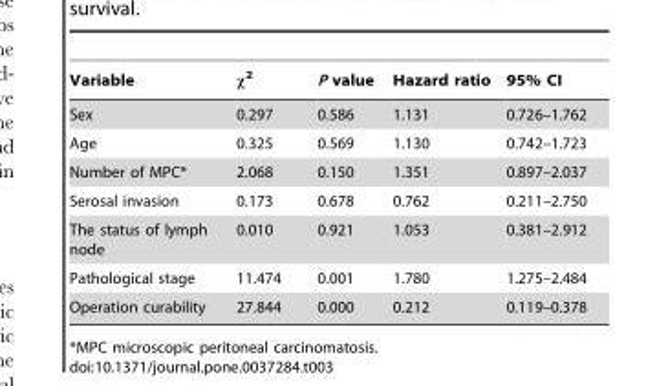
<table><thead><tr><td>Variable</td><td>χ<sup>2</sup></td><td>P value</td><td>Hazard ratio</td><td>95% CI</td></tr></thead><tbody><tr><td>Sex</td><td>0.297</td><td>0.586</td><td>1.131</td><td>0.726–1.762</td></tr><tr><td>Age</td><td>0.325</td><td>0.569</td><td>1.130</td><td>0.742–1.723</td></tr><tr><td>Number of MPC*</td><td>2.068</td><td>0.150</td><td>1.351</td><td>0.897–2.037</td></tr><tr><td>Serosal invasion</td><td>0.173</td><td>0.678</td><td>0.762</td><td>0.211–2.750</td></tr><tr><td>The status of lymph node</td><td>0.010</td><td>0.921</td><td>1.053</td><td>0.381–2.912</td></tr><tr><td>Pathological stage</td><td>11.474</td><td>0.001</td><td>1.780</td><td>1.275–2.484</td></tr><tr><td>Operation curability</td><td>27.844</td><td>0.000</td><td>0.212</td><td>0.119–0.378</td></tr></tbody></table>